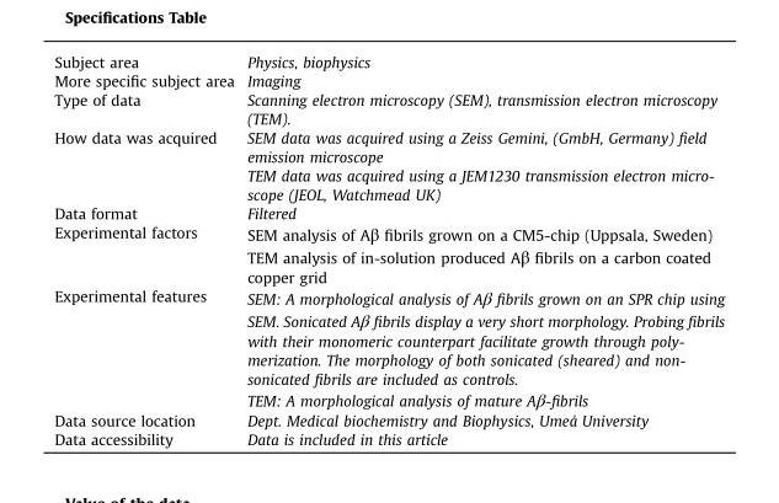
<table><thead><tr><td>Subject area</td><td>Physics, biophysics</td></tr></thead><tbody><tr><td>More specific subject area</td><td>Imaging</td></tr><tr><td>Type of data</td><td>Scanning electron microscopy (SEM), transmission electron microscopy (TEM).</td></tr><tr><td rowspan="2">How data was acquired</td><td>SEM data was acquired using a Zeiss Gemini, (GmbH, Germany) field emission microscope</td></tr><tr><td>TEM data was acquired using a JEM1230 transmission electron micro- scope (JEOL, Watchmead UK)</td></tr><tr><td>Data format</td><td>Filtered</td></tr><tr><td>Experimental factors</td><td>SEM analysis of Aβ fibrils grown on a CM5-chip (Uppsala, Sweden) TEM analysis of in-solution produced Aβ fibrils on a carbon coated copper grid</td></tr><tr><td rowspan="2">Experimental features</td><td>SEM: A morphological analysis of Aβ fibrils grown on an SPR chip using SEM. Sonicated Aβ fibrils display a very short morphology. Probing fibrils with their monomeric counterpart facilitate growth through poly- merization. The morphology of both sonicated (sheared) and non- sonicated fibrils are included as controls.</td></tr><tr><td>TEM: A morphological analysis of mature Aβ-fibrils</td></tr><tr><td>Data source location</td><td>Dept. Medical biochemistry and Biophysics, Umeå University</td></tr><tr><td>Data accessibility</td><td>Data is included in this article</td></tr></tbody></table>